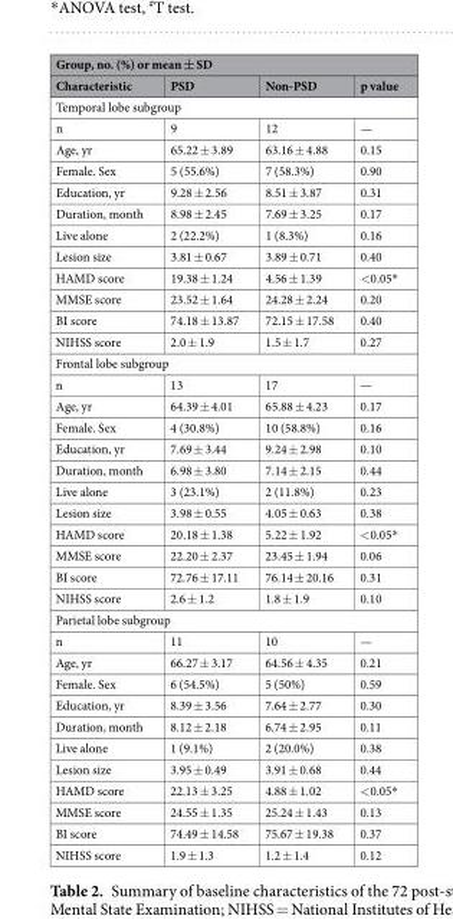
<table><thead><tr><td colspan="4">Group, no. (%) or mean ± SD</td></tr><tr><td>Characteristic</td><td>PSD</td><td>Non-PSD</td><td>p value</td></tr></thead><tbody><tr><td colspan="4">Temporal lobe subgroup</td></tr><tr><td>n</td><td>9</td><td>12</td><td>—</td></tr><tr><td>Age, yr</td><td>65.22 ± 3.89</td><td>63.16 ± 4.88</td><td>0.15</td></tr><tr><td>Female. Sex</td><td>5 (55.6%)</td><td>7 (58.3%)</td><td>0.90</td></tr><tr><td>Education, yr</td><td>9.28 ± 2.56</td><td>8.51 ± 3.87</td><td>0.31</td></tr><tr><td>Duration, month</td><td>8.98 ± 2.45</td><td>7.69 ± 3.25</td><td>0.17</td></tr><tr><td>Live alone</td><td>2 (22.2%)</td><td>1 (8.3%)</td><td>0.16</td></tr><tr><td>Lesion size</td><td>3.81 ± 0.67</td><td>3.89 ± 0.71</td><td>0.40</td></tr><tr><td>HAMD score</td><td>19.38 ± 1.24</td><td>4.56 ± 1.39</td><td>&lt;0.05*</td></tr><tr><td>MMSE score</td><td>23.52 ± 1.64</td><td>24.28 ± 2.24</td><td>0.20</td></tr><tr><td>BI score</td><td>74.18 ± 13.87</td><td>72.15 ± 17.58</td><td>0.40</td></tr><tr><td>NIHSS score</td><td>2.0 ± 1.9</td><td>1.5 ± 1.7</td><td>0.27</td></tr><tr><td colspan="4">Frontal lobe subgroup</td></tr><tr><td>n</td><td>13</td><td>17</td><td>—</td></tr><tr><td>Age, yr</td><td>64.39 ± 4.01</td><td>65.88 ± 4.23</td><td>0.17</td></tr><tr><td>Female. Sex</td><td>4 (30.8%)</td><td>10 (58.8%)</td><td>0.16</td></tr><tr><td>Education, yr</td><td>7.69 ± 3.44</td><td>9.24 ± 2.98</td><td>0.10</td></tr><tr><td>Duration, month</td><td>6.98 ± 3.80</td><td>7.14 ± 2.15</td><td>0.44</td></tr><tr><td>Live alone</td><td>3 (23.1%)</td><td>2 (11.8%)</td><td>0.23</td></tr><tr><td>Lesion size</td><td>3.98 ± 0.55</td><td>4.05 ± 0.63</td><td>0.38</td></tr><tr><td>HAMD score</td><td>20.18 ± 1.38</td><td>5.22 ± 1.92</td><td>&lt;0.05*</td></tr><tr><td>MMSE score</td><td>22.20 ± 2.37</td><td>23.45 ± 1.94</td><td>0.06</td></tr><tr><td>BI score</td><td>72.76 ± 17.11</td><td>76.14 ± 20.16</td><td>0.31</td></tr><tr><td>NIHSS score</td><td>2.6 ± 1.2</td><td>1.8 ± 1.9</td><td>0.10</td></tr><tr><td colspan="4">Parietal lobe subgroup</td></tr><tr><td>n</td><td>11</td><td>10</td><td>—</td></tr><tr><td>Age, yr</td><td>66.27 ± 3.17</td><td>64.56 ± 4.35</td><td>0.21</td></tr><tr><td>Female. Sex</td><td>6 (54.5%)</td><td>5 (50%)</td><td>0.59</td></tr><tr><td>Education, yr</td><td>8.39 ± 3.56</td><td>7.64 ± 2.77</td><td>0.30</td></tr><tr><td>Duration, month</td><td>8.12 ± 2.18</td><td>6.74 ± 2.95</td><td>0.11</td></tr><tr><td>Live alone</td><td>1 (9.1%)</td><td>2 (20.0%)</td><td>0.38</td></tr><tr><td>Lesion size</td><td>3.95 ± 0.49</td><td>3.91 ± 0.68</td><td>0.44</td></tr><tr><td>HAMD score</td><td>22.13 ± 3.25</td><td>4.88 ± 1.02</td><td>&lt;0.05*</td></tr><tr><td>MMSE score</td><td>24.55 ± 1.35</td><td>25.24 ± 1.43</td><td>0.13</td></tr><tr><td>BI score</td><td>74.49 ± 14.58</td><td>75.67 ± 19.38</td><td>0.37</td></tr><tr><td>NIHSS score</td><td>1.9 ± 1.3</td><td>1.2 ± 1.4</td><td>0.12</td></tr></tbody></table>